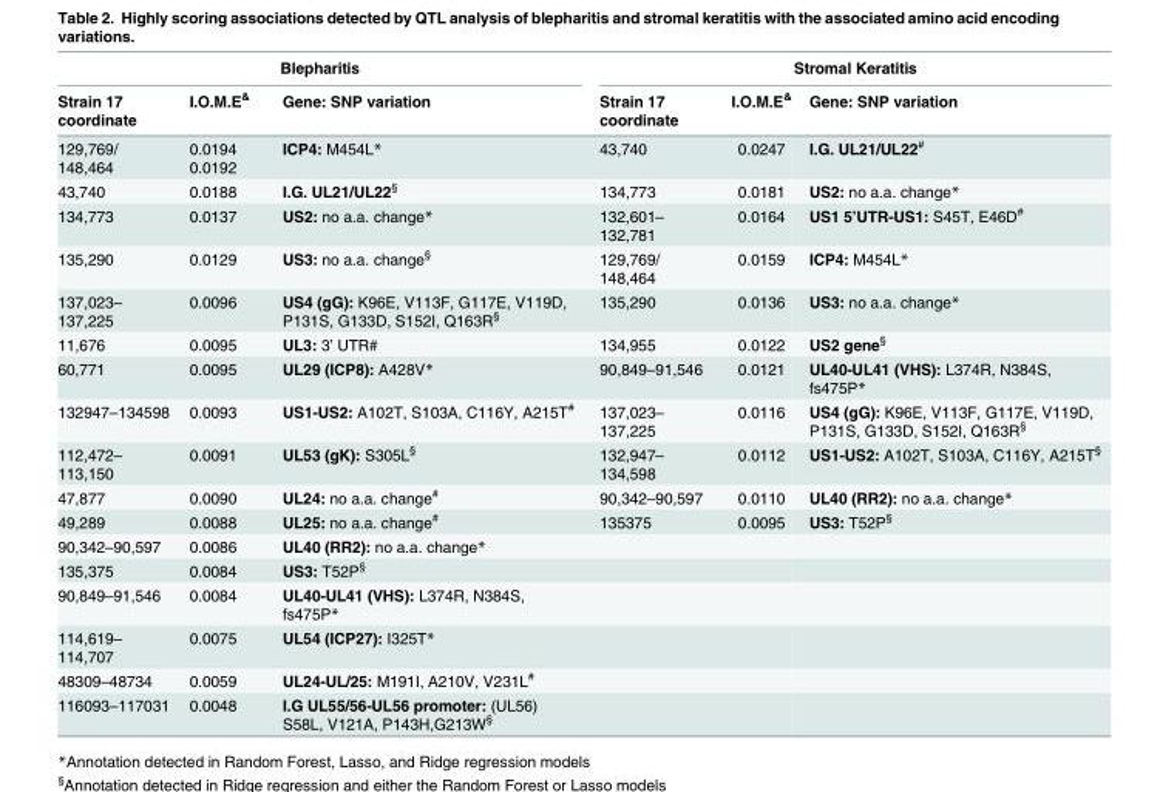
<table><thead><tr><td colspan="3">Blepharitis</td><td colspan="3">Stromal Keratitis</td></tr><tr><td>Strain 17 coordinate</td><td>I.O.M.E<sup>&amp;</sup></td><td>Gene: SNP variation</td><td>Strain 17 coordinate</td><td>I.O.M.E<sup>&amp;</sup></td><td>Gene: SNP variation</td></tr></thead><tbody><tr><td>129,769/ 148,464</td><td>0.0194 0.0192</td><td>ICP4: M454L*</td><td>43,740</td><td>0.0247</td><td>I.G. UL21/UL22<sup>#</sup></td></tr><tr><td>43,740</td><td>0.0188</td><td>I.G. UL21/UL22<sup>§</sup></td><td>134,773</td><td>0.0181</td><td>US2: no a.a. change*</td></tr><tr><td>134,773</td><td>0.0137</td><td>US2: no a.a. change*</td><td>132,601– 132,781</td><td>0.0164</td><td>US1 5’UTR-US1: S45T, E46D<sup>#</sup></td></tr><tr><td>135,290</td><td>0.0129</td><td>US3: no a.a. change<sup>§</sup></td><td>129,769/ 148,464</td><td>0.0159</td><td>ICP4: M454L*</td></tr><tr><td>137,023– 137,225</td><td>0.0096</td><td>US4 (gG): K96E, V113F, G117E, V119D, P131S, G133D, S152I, Q163R<sup>§</sup></td><td>135,290</td><td>0.0136</td><td>US3: no a.a. change*</td></tr><tr><td>11,676</td><td>0.0095</td><td>UL3: 3’ UTR#</td><td>134,955</td><td>0.0122</td><td>US2 gene<sup>§</sup></td></tr><tr><td>60,771</td><td>0.0095</td><td>UL29 (ICP8): A428V*</td><td>90,849–91,546</td><td>0.0121</td><td>UL40-UL41 (VHS): L374R, N384S, fs475P*</td></tr><tr><td>132947–134598</td><td>0.0093</td><td>US1-US2: A102T, S103A, C116Y, A215T<sup>#</sup></td><td>137,023– 137,225</td><td>0.0116</td><td>US4 (gG): K96E, V113F, G117E, V119D, P131S, G133D, S152I, Q163R<sup>§</sup></td></tr><tr><td>112,472– 113,150</td><td>0.0091</td><td>UL53 (gK): S305L<sup>§</sup></td><td>132,947– 134,598</td><td>0.0112</td><td>US1-US2: A102T, S103A, C116Y, A215T<sup>§</sup></td></tr><tr><td>47,877</td><td>0.0090</td><td>UL24: no a.a. change<sup>#</sup></td><td>90,342–90,597</td><td>0.0110</td><td>UL40 (RR2): no a.a. change*</td></tr><tr><td>49,289</td><td>0.0088</td><td>UL25: no a.a. change<sup>#</sup></td><td>135375</td><td>0.0095</td><td>US3: T52P<sup>§</sup></td></tr><tr><td>90,342–90,597</td><td>0.0086</td><td>UL40 (RR2): no a.a. change*</td><td></td><td></td><td></td></tr><tr><td>135,375</td><td>0.0084</td><td>US3: T52P<sup>§</sup></td><td></td><td></td><td></td></tr><tr><td>90,849–91,546</td><td>0.0084</td><td>UL40-UL41 (VHS): L374R, N384S, fs475P*</td><td></td><td></td><td></td></tr><tr><td>114,619– 114,707</td><td>0.0075</td><td>UL54 (ICP27): I325T*</td><td></td><td></td><td></td></tr><tr><td>48309–48734</td><td>0.0059</td><td>UL24-UL/25: M191I, A210V, V231L<sup>#</sup></td><td></td><td></td><td></td></tr><tr><td>116093–117031</td><td>0.0048</td><td>I.G UL55/56-UL56 promoter: (UL56) S58L, V121A, P143H,G213W<sup>§</sup></td><td></td><td></td><td></td></tr></tbody></table>